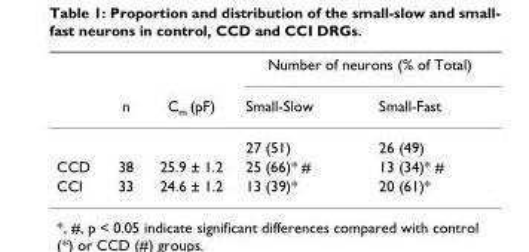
<table><thead><tr><td rowspan="2"></td><td rowspan="2">n</td><td rowspan="2">C<sub>m</sub> (pF)</td><td colspan="2">Number of neurons (% of Total)</td></tr><tr><td>Small-Slow</td><td>Small-Fast</td></tr></thead><tbody><tr><td></td><td></td><td></td><td>27 (51)</td><td>26 (49)</td></tr><tr><td>CCD</td><td>38</td><td>25.9 ± 1.2</td><td>25 (66)* #</td><td>13 (34)* #</td></tr><tr><td>CCI</td><td>33</td><td>24.6 ± 1.2</td><td>13 (39)*</td><td>20 (61)*</td></tr></tbody></table>